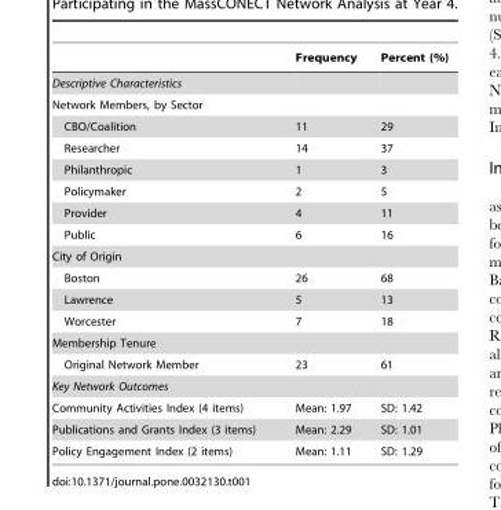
<table><thead><tr><td></td><td>Frequency</td><td>Percent (%)</td></tr></thead><tbody><tr><td colspan="3">Descriptive Characteristics</td></tr><tr><td colspan="3">Network Members, by Sector</td></tr><tr><td>CBO/Coalition</td><td>11</td><td>29</td></tr><tr><td>Researcher</td><td>14</td><td>37</td></tr><tr><td>Philanthropic</td><td>1</td><td>3</td></tr><tr><td>Policymaker</td><td>2</td><td>5</td></tr><tr><td>Provider</td><td>4</td><td>11</td></tr><tr><td>Public</td><td>6</td><td>16</td></tr><tr><td colspan="3">City of Origin</td></tr><tr><td>Boston</td><td>26</td><td>68</td></tr><tr><td>Lawrence</td><td>5</td><td>13</td></tr><tr><td>Worcester</td><td>7</td><td>18</td></tr><tr><td colspan="3">Membership Tenure</td></tr><tr><td>Original Network Member</td><td>23</td><td>61</td></tr><tr><td colspan="3">Key Network Outcomes</td></tr><tr><td>Community Activities Index (4 items)</td><td>Mean: 1.97</td><td>SD: 1.42</td></tr><tr><td>Publications and Grants Index (3 items)</td><td>Mean: 2.29</td><td>SD: 1.01</td></tr><tr><td>Policy Engagement Index (2 items)</td><td>Mean: 1.11</td><td>SD: 1.29</td></tr></tbody></table>